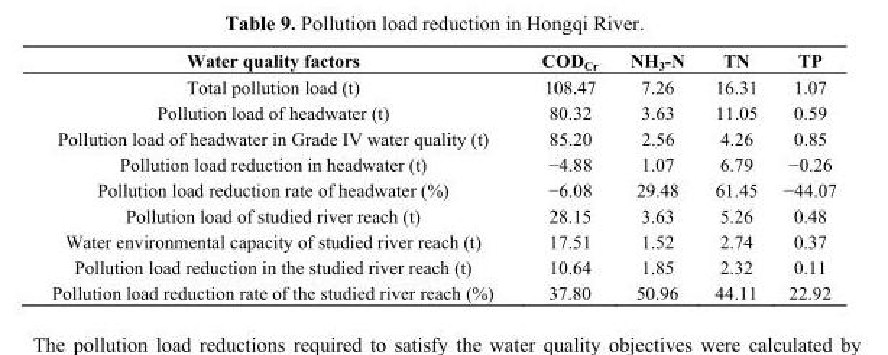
<table><thead><tr><td>Water quality factors</td><td>COD<sub>Cr</sub></td><td>NH<sub>3</sub>-N</td><td>TN</td><td>TP</td></tr></thead><tbody><tr><td>Total pollution load (t)</td><td>108.47</td><td>7.26</td><td>16.31</td><td>1.07</td></tr><tr><td>Pollution load of headwater (t)</td><td>80.32</td><td>3.63</td><td>11.05</td><td>0.59</td></tr><tr><td>Pollution load of headwater in Grade IV water quality (t)</td><td>85.20</td><td>2.56</td><td>4.26</td><td>0.85</td></tr><tr><td>Pollution load reduction in headwater (t)</td><td>−4.88</td><td>1.07</td><td>6.79</td><td>−0.26</td></tr><tr><td>Pollution load reduction rate of headwater (%)</td><td>−6.08</td><td>29.48</td><td>61.45</td><td>−44.07</td></tr><tr><td>Pollution load of studied river reach (t)</td><td>28.15</td><td>3.63</td><td>5.26</td><td>0.48</td></tr><tr><td>Water environmental capacity of studied river reach (t)</td><td>17.51</td><td>1.52</td><td>2.74</td><td>0.37</td></tr><tr><td>Pollution load reduction in the studied river reach (t)</td><td>10.64</td><td>1.85</td><td>2.32</td><td>0.11</td></tr><tr><td>Pollution load reduction rate of the studied river reach (%)</td><td>37.80</td><td>50.96</td><td>44.11</td><td>22.92</td></tr></tbody></table>